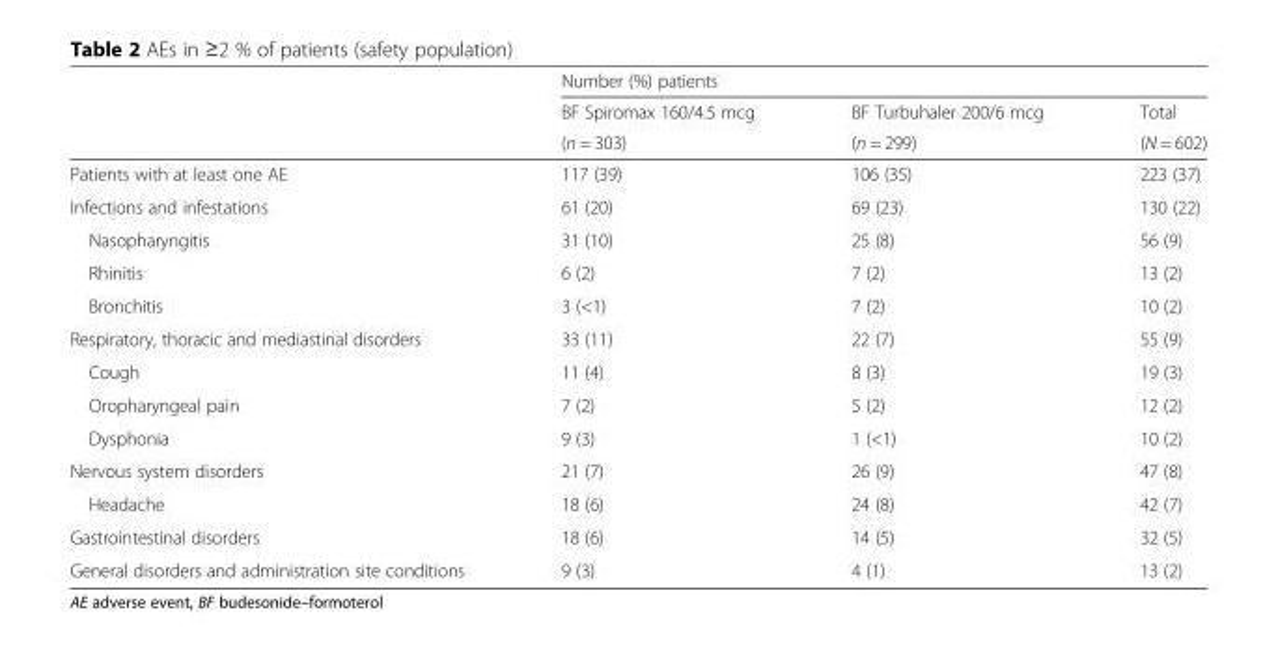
<table><thead><tr><td rowspan="3"></td><td colspan="3">Number (%) patients</td></tr><tr><td rowspan="2">BF Spiromax 160/4.5 mcg (n = 303)</td><td rowspan="2">BF Turbuhaler 200/6 mcg (n = 299)</td><td rowspan="2">Total (N = 602)</td></tr><tr></tr></thead><tbody><tr><td>Patients with at least one AE</td><td>117 (39)</td><td>106 (35)</td><td>223 (37)</td></tr><tr><td>Infections and infestations</td><td>61 (20)</td><td>69 (23)</td><td>130 (22)</td></tr><tr><td>Nasopharyngitis</td><td>31 (10)</td><td>25 (8)</td><td>56 (9)</td></tr><tr><td>Rhinitis</td><td>6 (2)</td><td>7 (2)</td><td>13 (2)</td></tr><tr><td>Bronchitis</td><td>3 (&lt;1)</td><td>7 (2)</td><td>10 (2)</td></tr><tr><td>Respiratory, thoracic and mediastinal disorders</td><td>33 (11)</td><td>22 (7)</td><td>55 (9)</td></tr><tr><td>Cough</td><td>11 (4)</td><td>8 (3)</td><td>19 (3)</td></tr><tr><td>Oropharyngeal pain</td><td>7 (2)</td><td>5 (2)</td><td>12 (2)</td></tr><tr><td>Dysphonia</td><td>9 (3)</td><td>1 (&lt;1)</td><td>10 (2)</td></tr><tr><td>Nervous system disorders</td><td>21 (7)</td><td>26 (9)</td><td>47 (8)</td></tr><tr><td>Headache</td><td>18 (6)</td><td>24 (8)</td><td>42 (7)</td></tr><tr><td>Gastrointestinal disorders</td><td>18 (6)</td><td>14 (5)</td><td>32 (5)</td></tr><tr><td>General disorders and administration site conditions</td><td>9 (3)</td><td>4 (1)</td><td>13 (2)</td></tr></tbody></table>